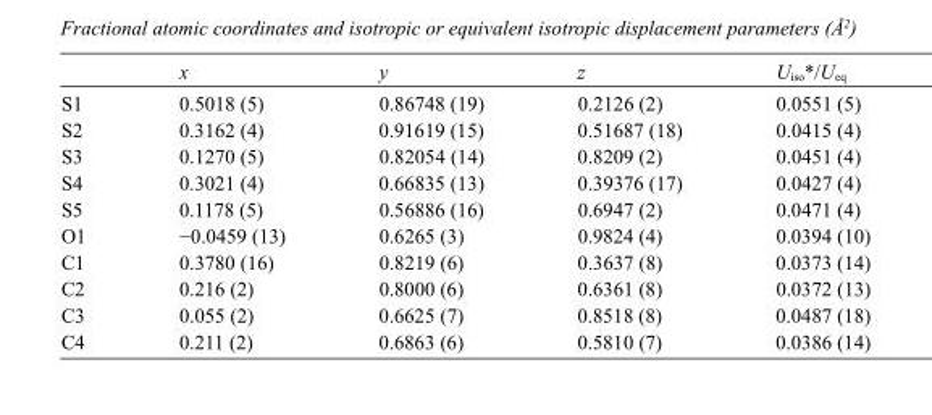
<table><thead><tr><td></td><td>x</td><td>y</td><td>z</td><td>U<sub>iso</sub>*/U<sub>eq</sub></td></tr></thead><tbody><tr><td>S1</td><td>0.5018 (5)</td><td>0.86748 (19)</td><td>0.2126 (2)</td><td>0.0551 (5)</td></tr><tr><td>S2</td><td>0.3162 (4)</td><td>0.91619 (15)</td><td>0.51687 (18)</td><td>0.0415 (4)</td></tr><tr><td>S3</td><td>0.1270 (5)</td><td>0.82054 (14)</td><td>0.8209 (2)</td><td>0.0451 (4)</td></tr><tr><td>S4</td><td>0.3021 (4)</td><td>0.66835 (13)</td><td>0.39376 (17)</td><td>0.0427 (4)</td></tr><tr><td>S5</td><td>0.1178 (5)</td><td>0.56886 (16)</td><td>0.6947 (2)</td><td>0.0471 (4)</td></tr><tr><td>O1</td><td>−0.0459 (13)</td><td>0.6265 (3)</td><td>0.9824 (4)</td><td>0.0394 (10)</td></tr><tr><td>C1</td><td>0.3780 (16)</td><td>0.8219 (6)</td><td>0.3637 (8)</td><td>0.0373 (14)</td></tr><tr><td>C2</td><td>0.216 (2)</td><td>0.8000 (6)</td><td>0.6361 (8)</td><td>0.0372 (13)</td></tr><tr><td>C3</td><td>0.055 (2)</td><td>0.6625 (7)</td><td>0.8518 (8)</td><td>0.0487 (18)</td></tr><tr><td>C4</td><td>0.211 (2)</td><td>0.6863 (6)</td><td>0.5810 (7)</td><td>0.0386 (14)</td></tr></tbody></table>